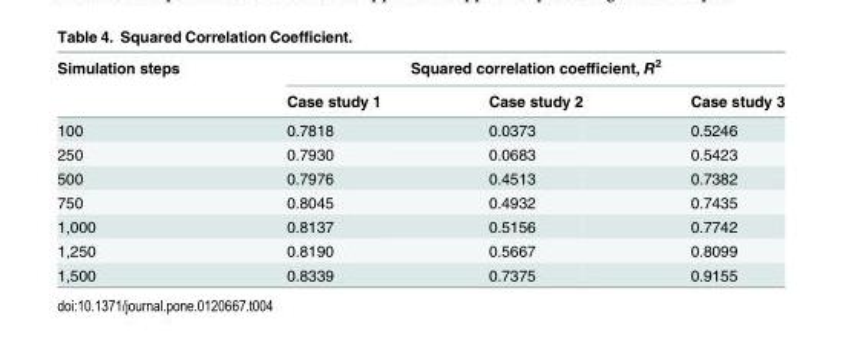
<table><thead><tr><td rowspan="2">Simulation steps</td><td colspan="3">Squared correlation coefficient, R<sup>2</sup></td></tr><tr><td>Case study 1</td><td>Case study 2</td><td>Case study 3</td></tr></thead><tbody><tr><td>100</td><td>0.7818</td><td>0.0373</td><td>0.5246</td></tr><tr><td>250</td><td>0.7930</td><td>0.0683</td><td>0.5423</td></tr><tr><td>500</td><td>0.7976</td><td>0.4513</td><td>0.7382</td></tr><tr><td>750</td><td>0.8045</td><td>0.4932</td><td>0.7435</td></tr><tr><td>1,000</td><td>0.8137</td><td>0.5156</td><td>0.7742</td></tr><tr><td>1,250</td><td>0.8190</td><td>0.5667</td><td>0.8099</td></tr><tr><td>1,500</td><td>0.8339</td><td>0.7375</td><td>0.9155</td></tr></tbody></table>